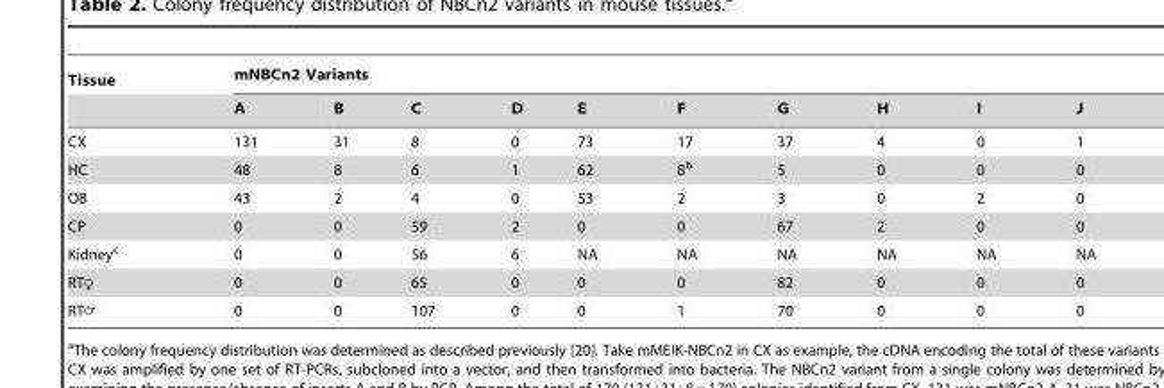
<table><thead><tr><td rowspan="2">Tissue</td><td colspan="10">mNBCn2 Variants</td></tr><tr><td>A</td><td>B</td><td>C</td><td>D</td><td>E</td><td>F</td><td>G</td><td>H</td><td>I</td><td>J</td></tr></thead><tbody><tr><td>CX</td><td>131</td><td>31</td><td>8</td><td>0</td><td>73</td><td>17</td><td>37</td><td>4</td><td>0</td><td>1</td></tr><tr><td>HC</td><td>48</td><td>8</td><td>6</td><td>1</td><td>62</td><td>8<sup>b</sup></td><td>5</td><td>0</td><td>0</td><td>0</td></tr><tr><td>OB</td><td>43</td><td>2</td><td>4</td><td>0</td><td>53</td><td>2</td><td>3</td><td>0</td><td>2</td><td>0</td></tr><tr><td>CP</td><td>0</td><td>0</td><td>59</td><td>2</td><td>0</td><td>0</td><td>67</td><td>2</td><td>0</td><td>0</td></tr><tr><td>Kidney<sup>c</sup></td><td>0</td><td>0</td><td>56</td><td>6</td><td>NA</td><td>NA</td><td>NA</td><td>NA</td><td>NA</td><td>NA</td></tr><tr><td>RT♀</td><td>0</td><td>0</td><td>65</td><td>0</td><td>0</td><td>0</td><td>82</td><td>0</td><td>0</td><td>0</td></tr><tr><td>RT=</td><td>0</td><td>0</td><td>107</td><td>0</td><td>0</td><td>1</td><td>70</td><td>0</td><td>0</td><td>0</td></tr></tbody></table>